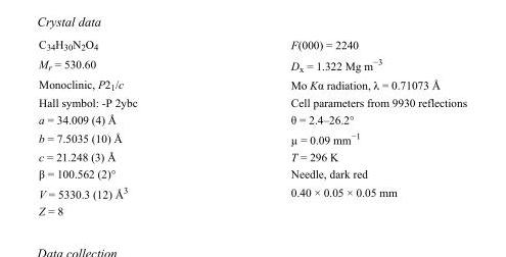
<table><tbody><tr><td>C<sub>34</sub>H<sub>30</sub>N<sub>2</sub>O<sub>4</sub></td><td>F(000) = 2240</td></tr><tr><td>M<sub>r</sub> = 530.60</td><td>D<sub>x</sub> = 1.322 Mg m<sup>−3</sup></td></tr><tr><td>Monoclinic, P2<sub>1</sub>/c</td><td>Mo Kα radiation, λ = 0.71073 Å</td></tr><tr><td>Hall symbol: -P 2ybc</td><td>Cell parameters from 9930 reflections</td></tr><tr><td>a = 34.009 (4) Å</td><td>θ = 2.4–26.2°</td></tr><tr><td>b = 7.5035 (10) Å</td><td>µ = 0.09 mm<sup>−1</sup></td></tr><tr><td>c = 21.248 (3) Å</td><td>T = 296 K</td></tr><tr><td>β = 100.562 (2)°</td><td>Needle, dark red</td></tr><tr><td>V = 5330.3 (12) Å<sup>3</sup></td><td>0.40 × 0.05 × 0.05 mm</td></tr><tr><td>Z = 8</td><td></td></tr></tbody></table>